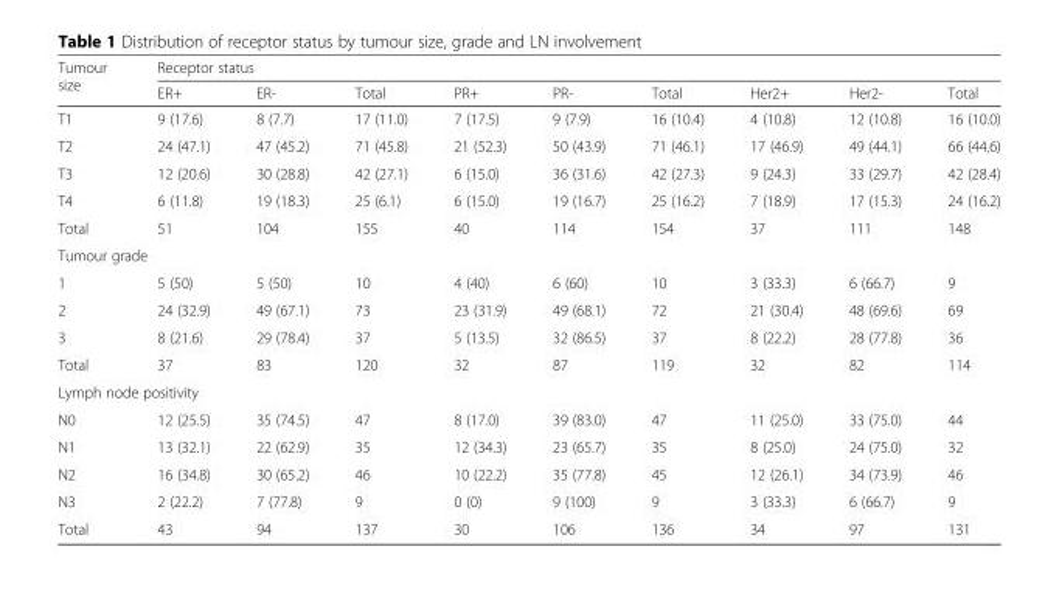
<table><thead><tr><td rowspan="2">Tumour size</td><td colspan="9">Receptor status</td></tr><tr><td>ER+</td><td>ER-</td><td>Total</td><td>PR+</td><td>PR-</td><td>Total</td><td>Her2+</td><td>Her2-</td><td>Total</td></tr></thead><tbody><tr><td>T1</td><td>9 (17.6)</td><td>8 (7.7)</td><td>17 (11.0)</td><td>7 (17.5)</td><td>9 (7.9)</td><td>16 (10.4)</td><td>4 (10.8)</td><td>12 (10.8)</td><td>16 (10.0)</td></tr><tr><td>T2</td><td>24 (47.1)</td><td>47 (45.2)</td><td>71 (45.8)</td><td>21 (52.3)</td><td>50 (43.9)</td><td>71 (46.1)</td><td>17 (46.9)</td><td>49 (44.1)</td><td>66 (44.6)</td></tr><tr><td>T3</td><td>12 (20.6)</td><td>30 (28.8)</td><td>42 (27.1)</td><td>6 (15.0)</td><td>36 (31.6)</td><td>42 (27.3)</td><td>9 (24.3)</td><td>33 (29.7)</td><td>42 (28.4)</td></tr><tr><td>T4</td><td>6 (11.8)</td><td>19 (18.3)</td><td>25 (6.1)</td><td>6 (15.0)</td><td>19 (16.7)</td><td>25 (16.2)</td><td>7 (18.9)</td><td>17 (15.3)</td><td>24 (16.2)</td></tr><tr><td>Total</td><td>51</td><td>104</td><td>155</td><td>40</td><td>114</td><td>154</td><td>37</td><td>111</td><td>148</td></tr><tr><td colspan="10">Tumour grade</td></tr><tr><td>1</td><td>5 (50)</td><td>5 (50)</td><td>10</td><td>4 (40)</td><td>6 (60)</td><td>10</td><td>3 (33.3)</td><td>6 (66.7)</td><td>9</td></tr><tr><td>2</td><td>24 (32.9)</td><td>49 (67.1)</td><td>73</td><td>23 (31.9)</td><td>49 (68.1)</td><td>72</td><td>21 (30.4)</td><td>48 (69.6)</td><td>69</td></tr><tr><td>3</td><td>8 (21.6)</td><td>29 (78.4)</td><td>37</td><td>5 (13.5)</td><td>32 (86.5)</td><td>37</td><td>8 (22.2)</td><td>28 (77.8)</td><td>36</td></tr><tr><td>Total</td><td>37</td><td>83</td><td>120</td><td>32</td><td>87</td><td>119</td><td>32</td><td>82</td><td>114</td></tr><tr><td colspan="10">Lymph node positivity</td></tr><tr><td>N0</td><td>12 (25.5)</td><td>35 (74.5)</td><td>47</td><td>8 (17.0)</td><td>39 (83.0)</td><td>47</td><td>11 (25.0)</td><td>33 (75.0)</td><td>44</td></tr><tr><td>N1</td><td>13 (32.1)</td><td>22 (62.9)</td><td>35</td><td>12 (34.3)</td><td>23 (65.7)</td><td>35</td><td>8 (25.0)</td><td>24 (75.0)</td><td>32</td></tr><tr><td>N2</td><td>16 (34.8)</td><td>30 (65.2)</td><td>46</td><td>10 (22.2)</td><td>35 (77.8)</td><td>45</td><td>12 (26.1)</td><td>34 (73.9)</td><td>46</td></tr><tr><td>N3</td><td>2 (22.2)</td><td>7 (77.8)</td><td>9</td><td>0 (0)</td><td>9 (100)</td><td>9</td><td>3 (33.3)</td><td>6 (66.7)</td><td>9</td></tr><tr><td>Total</td><td>43</td><td>94</td><td>137</td><td>30</td><td>106</td><td>136</td><td>34</td><td>97</td><td>131</td></tr></tbody></table>